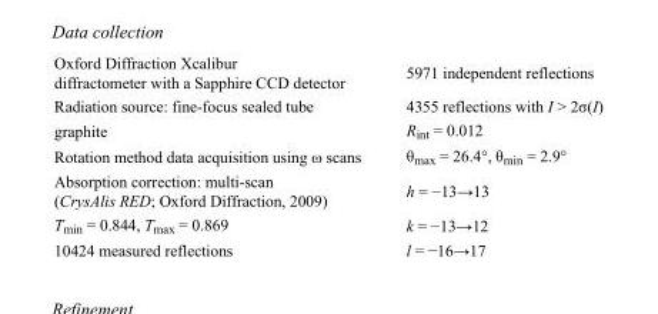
<table><tbody><tr><td>Oxford Diffraction Xcalibur diffractometer with a Sapphire CCD detector</td><td>5971 independent reflections</td></tr><tr><td>Radiation source: fine-focus sealed tube</td><td>4355 reflections with I &gt; 2σ(I)</td></tr><tr><td>graphite</td><td>R<sub>int</sub> = 0.012</td></tr><tr><td>Rotation method data acquisition using ω scans</td><td>θ<sub>max</sub> = 26.4°, θ<sub>min</sub> = 2.9°</td></tr><tr><td>Absorption correction: multi-scan (CrysAlis RED; Oxford Diffraction, 2009)</td><td>h = −13→13</td></tr><tr><td>T<sub>min</sub> = 0.844, T<sub>max</sub> = 0.869</td><td>k = −13→12</td></tr><tr><td>10424 measured reflections</td><td>l = −16→17</td></tr></tbody></table>